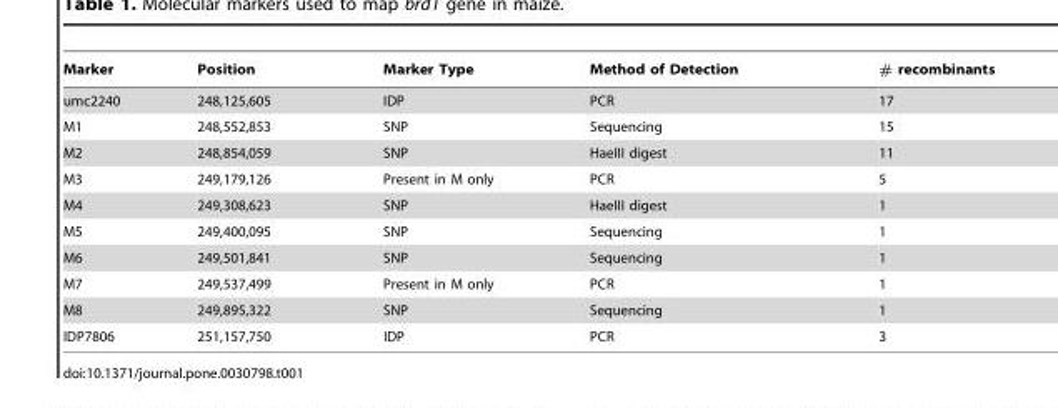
<table><thead><tr><td>Marker</td><td>Position</td><td>Marker Type</td><td>Method of Detection</td><td># recombinants</td></tr></thead><tbody><tr><td>umc2240</td><td>248,125,605</td><td>IDP</td><td>PCR</td><td>17</td></tr><tr><td>M1</td><td>248,552,853</td><td>SNP</td><td>Sequencing</td><td>15</td></tr><tr><td>M2</td><td>248,854,059</td><td>SNP</td><td>HaeIII digest</td><td>11</td></tr><tr><td>M3</td><td>249,179,126</td><td>Present in M only</td><td>PCR</td><td>5</td></tr><tr><td>M4</td><td>249,308,623</td><td>SNP</td><td>HaeIII digest</td><td>1</td></tr><tr><td>M5</td><td>249,400,095</td><td>SNP</td><td>Sequencing</td><td>1</td></tr><tr><td>M6</td><td>249,501,841</td><td>SNP</td><td>Sequencing</td><td>1</td></tr><tr><td>M7</td><td>249,537,499</td><td>Present in M only</td><td>PCR</td><td>1</td></tr><tr><td>M8</td><td>249,895,322</td><td>SNP</td><td>Sequencing</td><td>1</td></tr><tr><td>IDP7806</td><td>251,157,750</td><td>IDP</td><td>PCR</td><td>3</td></tr></tbody></table>